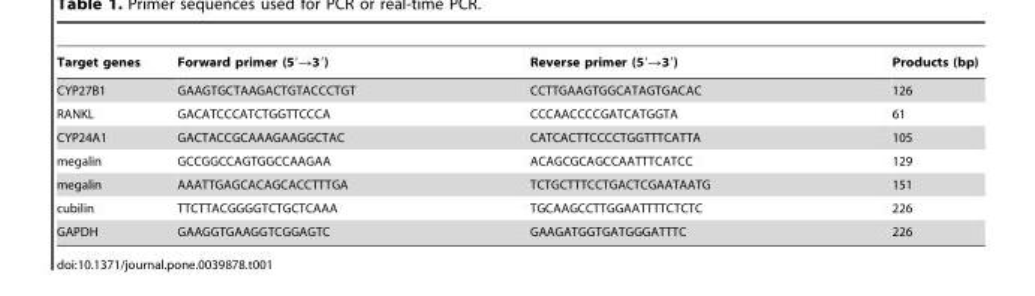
<table><thead><tr><td>Target genes</td><td>Forward primer (5′→3′)</td><td>Reverse primer (5′→3′)</td><td>Products (bp)</td></tr></thead><tbody><tr><td>CYP27B1</td><td>GAAGTGCTAAGACTGTACCCTGT</td><td>CCTTGAAGTGGCATAGTGACAC</td><td>126</td></tr><tr><td>RANKL</td><td>GACATCCCATCTGGTTCCCA</td><td>CCCAACCCCGATCATGGTA</td><td>61</td></tr><tr><td>CYP24A1</td><td>GACTACCGCAAAGAAGGCTAC</td><td>CATCACTTCCCCTGGTTTCATTA</td><td>105</td></tr><tr><td>megalin</td><td>GCCGGCCAGTGGCCAAGAA</td><td>ACAGCGCAGCCAATTTCATCC</td><td>129</td></tr><tr><td>megalin</td><td>AAATTGAGCACAGCACCTTTGA</td><td>TCTGCTTTCCTGACTCGAATAATG</td><td>151</td></tr><tr><td>cubilin</td><td>TTCTTACGGGGTCTGCTCAAA</td><td>TGCAAGCCTTGGAATTTTCTCTC</td><td>226</td></tr><tr><td>GAPDH</td><td>GAAGGTGAAGGTCGGAGTC</td><td>GAAGATGGTGATGGGATTTC</td><td>226</td></tr></tbody></table>